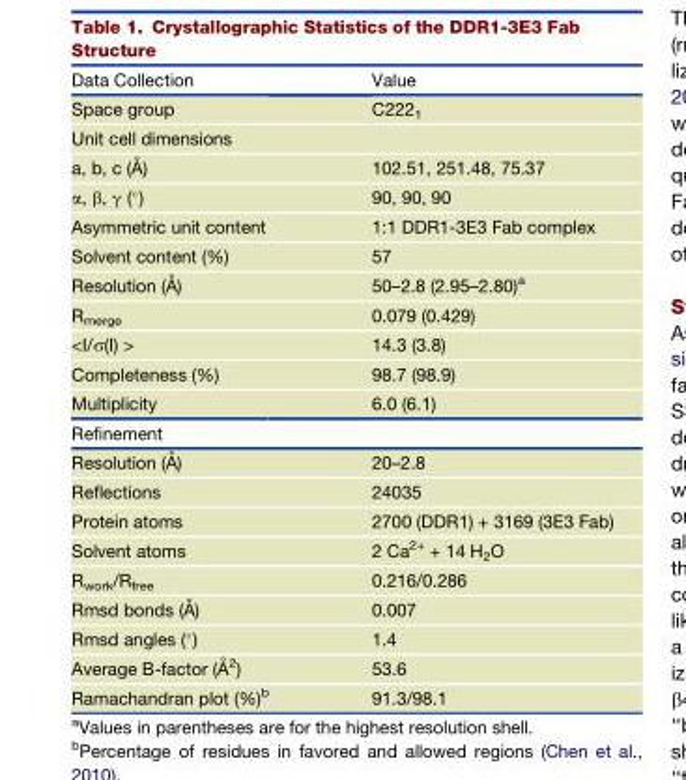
<table><thead><tr><td>Data Collection</td><td>Value</td></tr></thead><tbody><tr><td>Space group</td><td>C222<sub>1</sub></td></tr><tr><td colspan="2">Unit cell dimensions</td></tr><tr><td>a, b, c (A˚ )</td><td>102.51, 251.48, 75.37</td></tr><tr><td>α, β, γ (°)</td><td>90, 90, 90</td></tr><tr><td>Asymmetric unit content</td><td>1:1 DDR1-3E3 Fab complex</td></tr><tr><td>Solvent content (%)</td><td>57</td></tr><tr><td>Resolution (A˚ )</td><td>50–2.8 (2.95–2.80)<sup>a</sup></td></tr><tr><td>R<sub>merge</sub></td><td>0.079 (0.429)</td></tr><tr><td>&lt;I/σ(I) &gt;</td><td>14.3 (3.8)</td></tr><tr><td>Completeness (%)</td><td>98.7 (98.9)</td></tr><tr><td>Multiplicity</td><td>6.0 (6.1)</td></tr><tr><td colspan="2">Refinement</td></tr><tr><td>Resolution (A˚ )</td><td>20–2.8</td></tr><tr><td>Reflections</td><td>24035</td></tr><tr><td>Protein atoms</td><td>2700 (DDR1) + 3169 (3E3 Fab)</td></tr><tr><td>Solvent atoms</td><td>2 Ca<sup>2+</sup> + 14 H<sub>2</sub>O</td></tr><tr><td>R<sub>work</sub>/R<sub>free</sub></td><td>0.216/0.286</td></tr><tr><td>Rmsd bonds (A˚ )</td><td>0.007</td></tr><tr><td>Rmsd angles (°)</td><td>1.4</td></tr><tr><td>Average B-factor (A˚ 2)</td><td>53.6</td></tr><tr><td>Ramachandran plot (%)<sup>b</sup></td><td>91.3/98.1</td></tr></tbody></table>